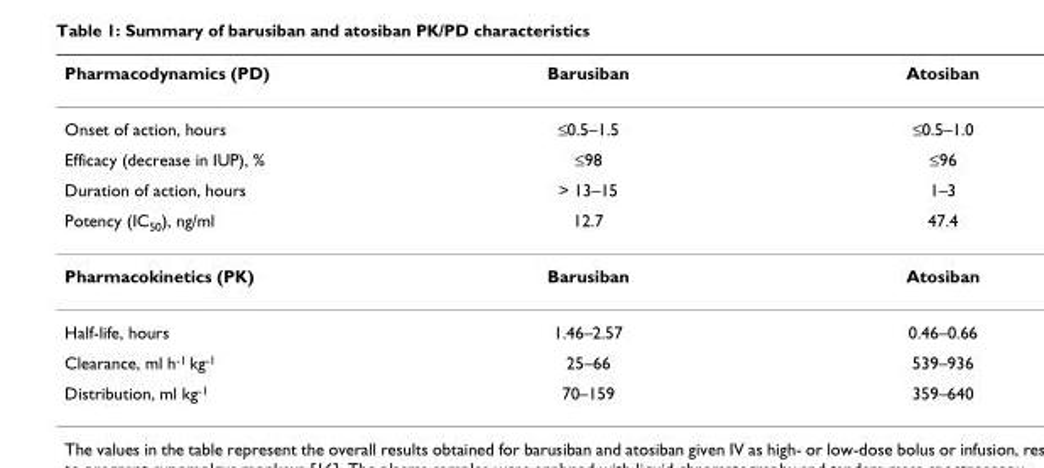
<table><thead><tr><td>Pharmacodynamics (PD)</td><td>Barusiban</td><td>Atosiban</td></tr></thead><tbody><tr><td>Onset of action, hours</td><td>≤0.5–1.5</td><td>≤0.5–1.0</td></tr><tr><td>Efficacy (decrease in IUP), %</td><td>≤98</td><td>≤96</td></tr><tr><td>Duration of action, hours</td><td>&gt; 13–15</td><td>1–3</td></tr><tr><td>Potency (IC50), ng/ml</td><td>12.7</td><td>47.4</td></tr><tr><td>Pharmacokinetics (PK)</td><td>Barusiban</td><td>Atosiban</td></tr><tr><td>Half-life, hours</td><td>1.46–2.57</td><td>0.46–0.66</td></tr><tr><td>Clearance, ml h-1 kg-1</td><td>25–66</td><td>539–936</td></tr><tr><td>Distribution, ml kg-1</td><td>70–159</td><td>359–640</td></tr></tbody></table>